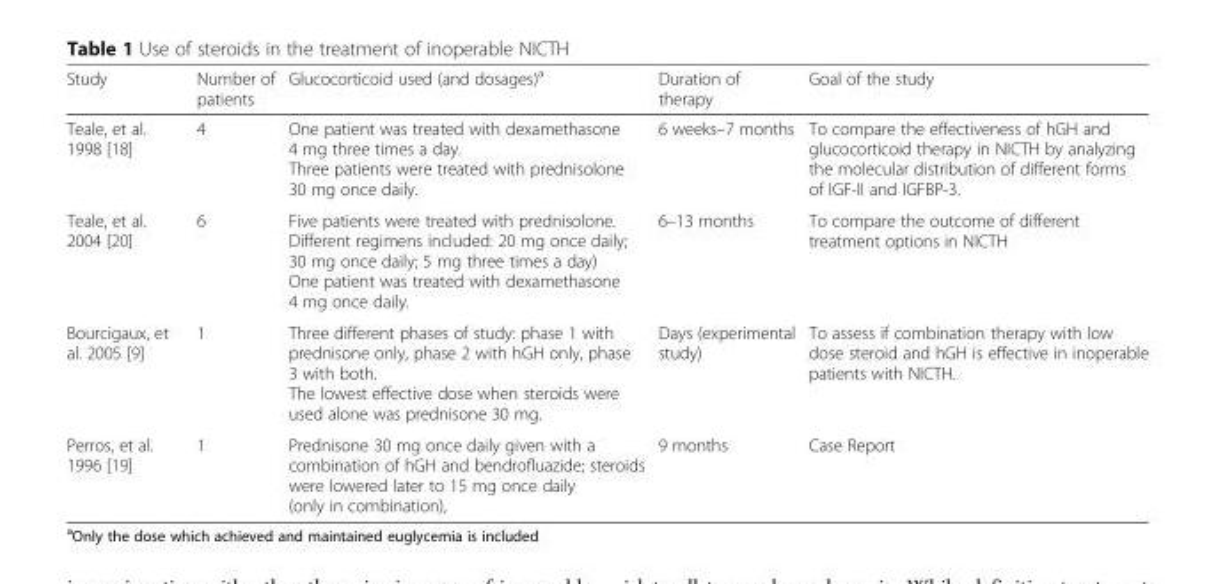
<table><thead><tr><td>Study</td><td>Number of patients</td><td>Glucocorticoid used (and dosages)<sup>a</sup></td><td>Duration of therapy</td><td>Goal of the study</td></tr></thead><tbody><tr><td>Teale, et al. 1998 [18]</td><td>4</td><td>One patient was treated with dexamethasone 4 mg three times a day. Three patients were treated with prednisolone 30 mg once daily.</td><td>6 weeks–7 months</td><td>To compare the effectiveness of hGH and glucocorticoid therapy in NICTH by analyzing the molecular distribution of different forms of IGF-II and IGFBP-3.</td></tr><tr><td>Teale, et al. 2004 [20]</td><td>6</td><td>Five patients were treated with prednisolone. Different regimens included: 20 mg once daily; 30 mg once daily; 5 mg three times a day) One patient was treated with dexamethasone 4 mg once daily.</td><td>6–13 months</td><td>To compare the outcome of different treatment options in NICTH</td></tr><tr><td>Bourcigaux, et al. 2005 [9]</td><td>1</td><td>Three different phases of study: phase 1 with prednisone only, phase 2 with hGH only, phase 3 with both. The lowest effective dose when steroids were used alone was prednisone 30 mg.</td><td>Days (experimental study)</td><td>To assess if combination therapy with low dose steroid and hGH is effective in inoperable patients with NICTH.</td></tr><tr><td>Perros, et al. 1996 [19]</td><td>1</td><td>Prednisone 30 mg once daily given with a combination of hGH and bendrofluazide; steroids were lowered later to 15 mg once daily (only in combination),</td><td>9 months</td><td>Case Report</td></tr></tbody></table>